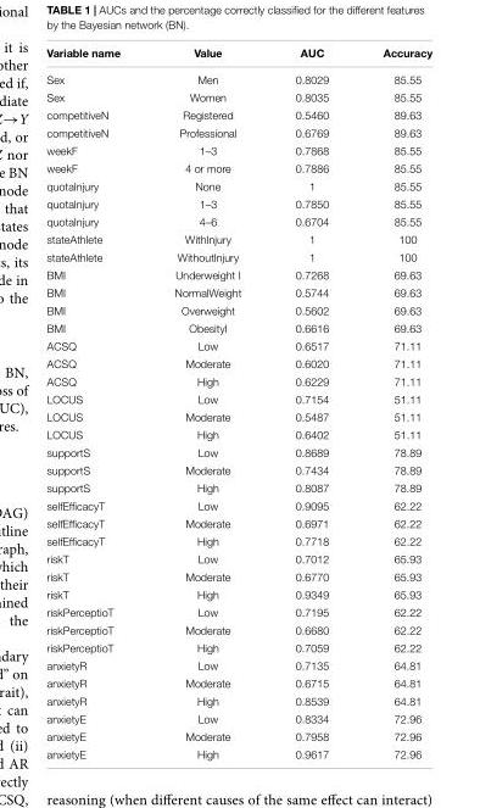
<table><thead><tr><td>Variable name</td><td>Value</td><td>AUC</td><td>Accuracy</td></tr></thead><tbody><tr><td>Sex</td><td>Men</td><td>0.8029</td><td>85.55</td></tr><tr><td>Sex</td><td>Women</td><td>0.8035</td><td>85.55</td></tr><tr><td>competitiveN</td><td>Registered</td><td>0.5460</td><td>89.63</td></tr><tr><td>competitiveN</td><td>Professional</td><td>0.6769</td><td>89.63</td></tr><tr><td>weekF</td><td>1–3</td><td>0.7868</td><td>85.55</td></tr><tr><td>weekF</td><td>4 or more</td><td>0.7886</td><td>85.55</td></tr><tr><td>quotaInjury</td><td>None</td><td>1</td><td>85.55</td></tr><tr><td>quotaInjury</td><td>1–3</td><td>0.7850</td><td>85.55</td></tr><tr><td>quotaInjury</td><td>4–6</td><td>0.6704</td><td>85.55</td></tr><tr><td>stateAthlete</td><td>WithInjury</td><td>1</td><td>100</td></tr><tr><td>stateAthlete</td><td>WithoutInjury</td><td>1</td><td>100</td></tr><tr><td>BMI</td><td>Underweight I</td><td>0.7268</td><td>69.63</td></tr><tr><td>BMI</td><td>NormalWeight</td><td>0.5744</td><td>69.63</td></tr><tr><td>BMI</td><td>Overweight</td><td>0.5602</td><td>69.63</td></tr><tr><td>BMI</td><td>ObesityI</td><td>0.6616</td><td>69.63</td></tr><tr><td>ACSQ</td><td>Low</td><td>0.6517</td><td>71.11</td></tr><tr><td>ACSQ</td><td>Moderate</td><td>0.6020</td><td>71.11</td></tr><tr><td>ACSQ</td><td>High</td><td>0.6229</td><td>71.11</td></tr><tr><td>LOCUS</td><td>Low</td><td>0.7154</td><td>51.11</td></tr><tr><td>LOCUS</td><td>Moderate</td><td>0.5487</td><td>51.11</td></tr><tr><td>LOCUS</td><td>High</td><td>0.6402</td><td>51.11</td></tr><tr><td>supportS</td><td>Low</td><td>0.8689</td><td>78.89</td></tr><tr><td>supportS</td><td>Moderate</td><td>0.7434</td><td>78.89</td></tr><tr><td>supportS</td><td>High</td><td>0.8087</td><td>78.89</td></tr><tr><td>selfEfficacyT</td><td>Low</td><td>0.9095</td><td>62.22</td></tr><tr><td>selfEfficacyT</td><td>Moderate</td><td>0.6971</td><td>62.22</td></tr><tr><td>selfEfficacyT</td><td>High</td><td>0.7718</td><td>62.22</td></tr><tr><td>riskT</td><td>Low</td><td>0.7012</td><td>65.93</td></tr><tr><td>riskT</td><td>Moderate</td><td>0.6770</td><td>65.93</td></tr><tr><td>riskT</td><td>High</td><td>0.9349</td><td>65.93</td></tr><tr><td>riskPerceptioT</td><td>Low</td><td>0.7195</td><td>62.22</td></tr><tr><td>riskPerceptioT</td><td>Moderate</td><td>0.6680</td><td>62.22</td></tr><tr><td>riskPerceptioT</td><td>High</td><td>0.7059</td><td>62.22</td></tr><tr><td>anxietyR</td><td>Low</td><td>0.7135</td><td>64.81</td></tr><tr><td>anxietyR</td><td>Moderate</td><td>0.6715</td><td>64.81</td></tr><tr><td>anxietyR</td><td>High</td><td>0.8539</td><td>64.81</td></tr><tr><td>anxietyE</td><td>Low</td><td>0.8334</td><td>72.96</td></tr><tr><td>anxietyE</td><td>Moderate</td><td>0.7958</td><td>72.96</td></tr><tr><td>anxietyE</td><td>High</td><td>0.9617</td><td>72.96</td></tr></tbody></table>